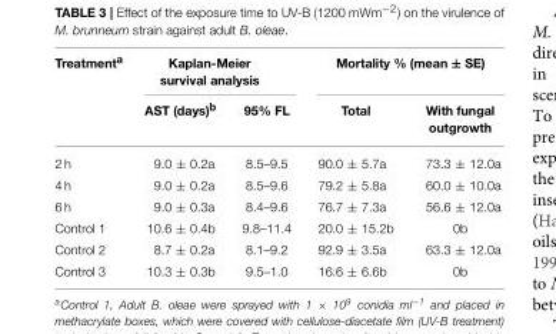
<table><thead><tr><td rowspan="2">Treatment<sup>a</sup></td><td colspan="2">Kaplan-Meier survival analysis</td><td colspan="2">Mortality % (mean ± SE)</td></tr><tr><td>AST (days)<sup>b</sup></td><td>95% FL</td><td>Total</td><td>With fungal outgrowth</td></tr></thead><tbody><tr><td>2 h</td><td>9.0 ± 0.2a</td><td>8.5–9.5</td><td>90.0 ± 5.7a</td><td>73.3 ± 12.0a</td></tr><tr><td>4 h</td><td>9.0 ± 0.2a</td><td>8.5–9.6</td><td>79.2 ± 5.8a</td><td>60.0 ± 10.0a</td></tr><tr><td>6 h</td><td>9.0 ± 0.3a</td><td>8.4–9.6</td><td>76.7 ± 7.3a</td><td>56.6 ± 12.0a</td></tr><tr><td>Control 1</td><td>10.6 ± 0.4b</td><td>9.8–11.4</td><td>20.0 ± 15.2b</td><td>0b</td></tr><tr><td>Control 2</td><td>8.7 ± 0.2a</td><td>8.1–9.2</td><td>92.9 ± 3.5a</td><td>63.3 ± 12.0a</td></tr><tr><td>Control 3</td><td>10.3 ± 0.3b</td><td>9.5–1.0</td><td>16.6 ± 6.6b</td><td>0b</td></tr></tbody></table>